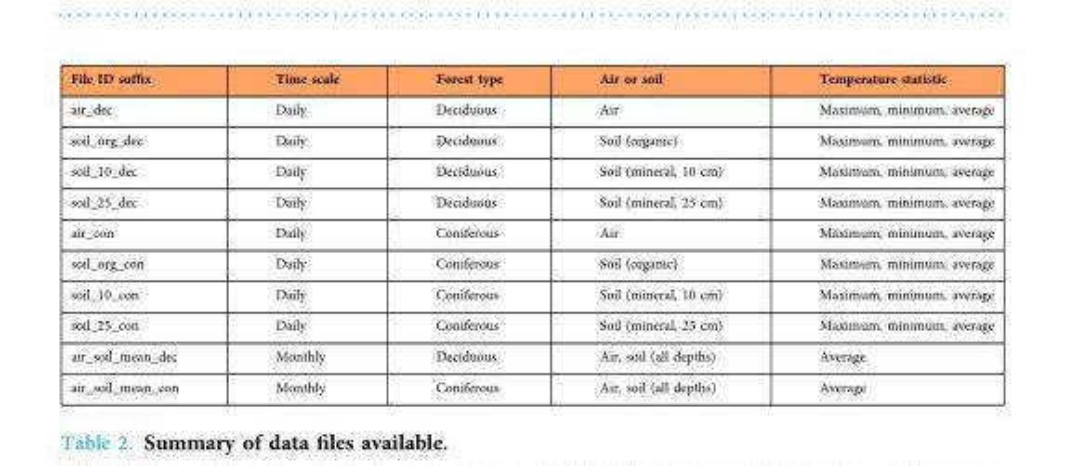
<table><thead><tr><td>File ID suffix</td><td>Time scale</td><td>Forest type</td><td>Air or soil</td><td>Temperature statistic</td></tr></thead><tbody><tr><td>air_dec</td><td>Daily</td><td>Deciduous</td><td>Air</td><td>Maximum, minimum, average</td></tr><tr><td>soil_org_dec</td><td>Daily</td><td>Deciduous</td><td>Soil (organic)</td><td>Maximum, minimum, average</td></tr><tr><td>soil_10_dec</td><td>Daily</td><td>Deciduous</td><td>Soil (mineral, 10 cm)</td><td>Maximum, minimum, average</td></tr><tr><td>soil_25_dec</td><td>Daily</td><td>Deciduous</td><td>Soil (mineral, 25 cm)</td><td>Maximum, minimum, average</td></tr><tr><td>air_con</td><td>Daily</td><td>Coniferous</td><td>Air</td><td>Maximum, minimum, average</td></tr><tr><td>soil_org_con</td><td>Daily</td><td>Coniferous</td><td>Soil (organic)</td><td>Maximum, minimum, average</td></tr><tr><td>soil_10_con</td><td>Daily</td><td>Coniferous</td><td>Soil (mineral, 10 cm)</td><td>Maximum, minimum, average</td></tr><tr><td>soil_25_con</td><td>Daily</td><td>Coniferous</td><td>Soil (mineral, 25 cm)</td><td>Maximum, minimum, average</td></tr><tr><td>air_soil_mean_dec</td><td>Monthly</td><td>Deciduous</td><td>Air, soil (all depths)</td><td>Average</td></tr><tr><td>air_soil_mean_con</td><td>Monthly</td><td>Coniferous</td><td>Air, soil (all depths)</td><td>Average</td></tr></tbody></table>